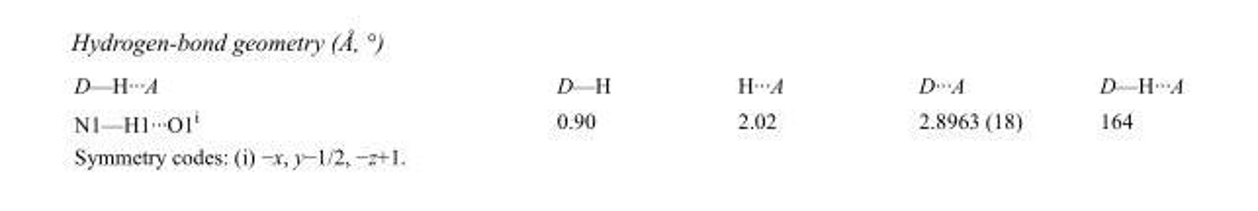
<table><tbody><tr><td>D—H···A</td><td>D—H</td><td>H···A</td><td>D···A</td><td>D—H···A</td></tr><tr><td>N1—H1···O1<sup>i</sup></td><td>0.90</td><td>2.02</td><td>2.8963 (18)</td><td>164</td></tr></tbody></table>